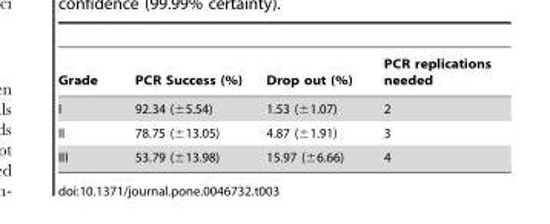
<table><thead><tr><td>Grade</td><td>PCR Success (%)</td><td>Drop out (%)</td><td>PCR replications needed</td></tr></thead><tbody><tr><td>I</td><td>92.34 (±5.54)</td><td>1.53 (±1.07)</td><td>2</td></tr><tr><td>II</td><td>78.75 (±13.05)</td><td>4.87 (±1.91)</td><td>3</td></tr><tr><td>III</td><td>53.79 (±13.98)</td><td>15.97 (±6.66)</td><td>4</td></tr></tbody></table>